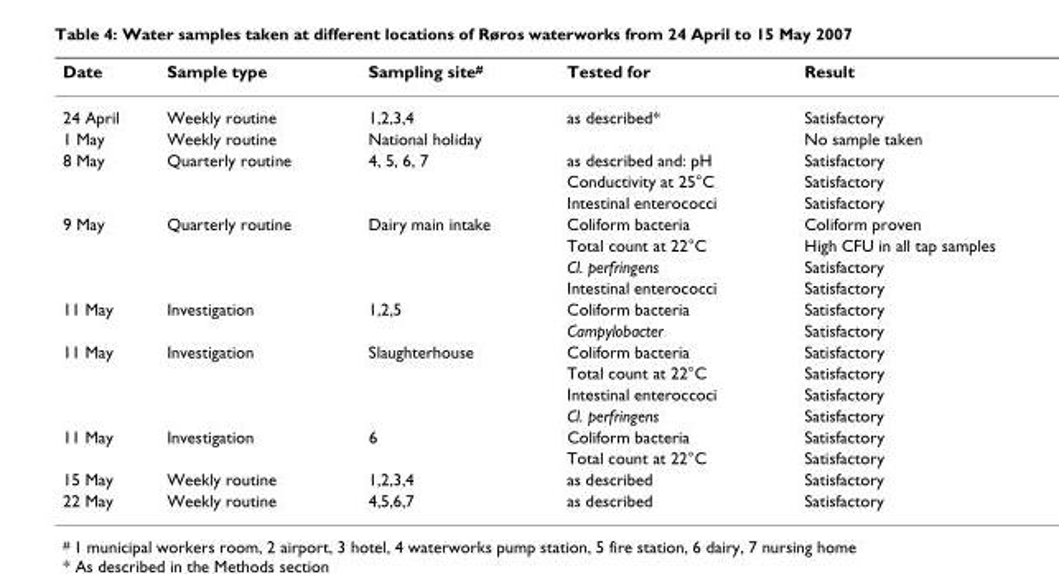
<table><thead><tr><td>Date</td><td>Sample type</td><td>Sampling site<sup>#</sup></td><td>Tested for</td><td>Result</td></tr></thead><tbody><tr><td>24 April</td><td>Weekly routine</td><td>1,2,3,4</td><td>as described*</td><td>Satisfactory</td></tr><tr><td>1 May</td><td>Weekly routine</td><td>National holiday</td><td></td><td>No sample taken</td></tr><tr><td rowspan="3">8 May</td><td>Quarterly routine</td><td>4, 5, 6, 7</td><td>as described and: pH</td><td>Satisfactory</td></tr><tr><td></td><td></td><td>Conductivity at 25°C</td><td>Satisfactory</td></tr><tr><td></td><td></td><td>Intestinal enterococci</td><td>Satisfactory</td></tr><tr><td rowspan="4">9 May</td><td>Quarterly routine</td><td>Dairy main intake</td><td>Coliform bacteria</td><td>Coliform proven</td></tr><tr><td></td><td></td><td>Total count at 22°C</td><td>High CFU in all tap samples</td></tr><tr><td></td><td></td><td>Cl. perfringens</td><td>Satisfactory</td></tr><tr><td></td><td></td><td>Intestinal enterococci</td><td>Satisfactory</td></tr><tr><td rowspan="2">11 May</td><td>Investigation</td><td>1,2,5</td><td>Coliform bacteria</td><td>Satisfactory</td></tr><tr><td></td><td></td><td>Campylobacter</td><td>Satisfactory</td></tr><tr><td rowspan="4">11 May</td><td>Investigation</td><td>Slaughterhouse</td><td>Coliform bacteria</td><td>Satisfactory</td></tr><tr><td></td><td></td><td>Total count at 22°C</td><td>Satisfactory</td></tr><tr><td></td><td></td><td>Intestinal enteroccoci</td><td>Satisfactory</td></tr><tr><td></td><td></td><td>Cl. perfringens</td><td>Satisfactory</td></tr><tr><td rowspan="2">11 May</td><td>Investigation</td><td>6</td><td>Coliform bacteria</td><td>Satisfactory</td></tr><tr><td></td><td></td><td>Total count at 22°C</td><td>Satisfactory</td></tr><tr><td>15 May</td><td>Weekly routine</td><td>1,2,3,4</td><td>as described</td><td>Satisfactory</td></tr><tr><td>22 May</td><td>Weekly routine</td><td>4,5,6,7</td><td>as described</td><td>Satisfactory</td></tr></tbody></table>